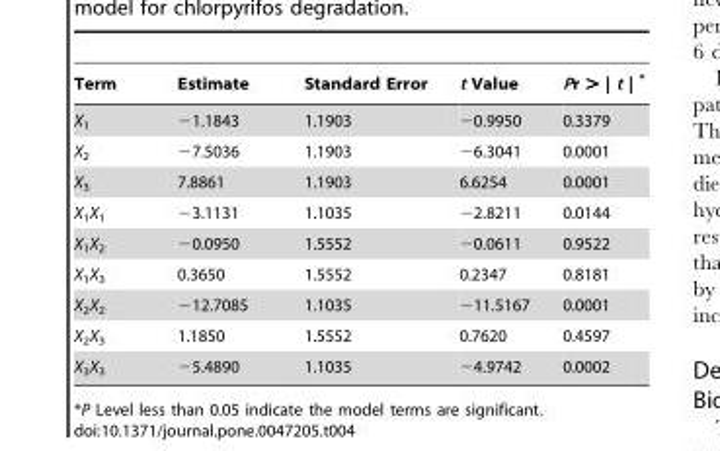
<table><thead><tr><td>Term</td><td>Estimate</td><td>Standard Error</td><td>t Value</td><td>Pr &gt; | t | *</td></tr></thead><tbody><tr><td>X<sub>1</sub></td><td>−1.1843</td><td>1.1903</td><td>−0.9950</td><td>0.3379</td></tr><tr><td>X<sub>2</sub></td><td>−7.5036</td><td>1.1903</td><td>−6.3041</td><td>0.0001</td></tr><tr><td>X<sub>3</sub></td><td>7.8861</td><td>1.1903</td><td>6.6254</td><td>0.0001</td></tr><tr><td>X<sub>1</sub>X<sub>1</sub></td><td>−3.1131</td><td>1.1035</td><td>−2.8211</td><td>0.0144</td></tr><tr><td>X<sub>1</sub>X<sub>2</sub></td><td>−0.0950</td><td>1.5552</td><td>−0.0611</td><td>0.9522</td></tr><tr><td>X<sub>1</sub>X<sub>3</sub></td><td>0.3650</td><td>1.5552</td><td>0.2347</td><td>0.8181</td></tr><tr><td>X<sub>2</sub>X<sub>2</sub></td><td>−12.7085</td><td>1.1035</td><td>−11.5167</td><td>0.0001</td></tr><tr><td>X<sub>2</sub>X<sub>3</sub></td><td>1.1850</td><td>1.5552</td><td>0.7620</td><td>0.4597</td></tr><tr><td>X<sub>3</sub>X<sub>3</sub></td><td>−5.4890</td><td>1.1035</td><td>−4.9742</td><td>0.0002</td></tr></tbody></table>